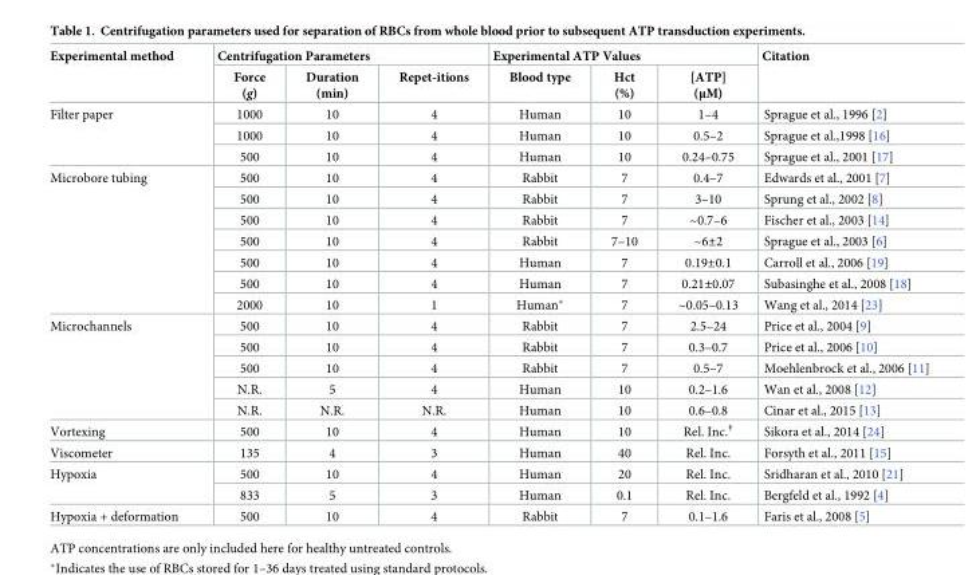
<table><thead><tr><td rowspan="2">Experimental method</td><td colspan="3">Centrifugation Parameters</td><td colspan="3">Experimental ATP Values</td><td rowspan="2">Citation</td></tr><tr><td>Force (g)</td><td>Duration (min)</td><td>Repet-itions</td><td>Blood type</td><td>Hct (%)</td><td>[ATP] (μM)</td></tr></thead><tbody><tr><td rowspan="3">Filter paper</td><td>1000</td><td>10</td><td>4</td><td>Human</td><td>10</td><td>1–4</td><td>Sprague et al., 1996 [2]</td></tr><tr><td>1000</td><td>10</td><td>4</td><td>Human</td><td>10</td><td>0.5–2</td><td>Sprague et al.,1998 [16]</td></tr><tr><td>500</td><td>10</td><td>4</td><td>Human</td><td>10</td><td>0.24–0.75</td><td>Sprague et al., 2001 [17]</td></tr><tr><td rowspan="7">Microbore tubing</td><td>500</td><td>10</td><td>4</td><td>Rabbit</td><td>7</td><td>0.4–7</td><td>Edwards et al., 2001 [7]</td></tr><tr><td>500</td><td>10</td><td>4</td><td>Rabbit</td><td>7</td><td>3–10</td><td>Sprung et al., 2002 [8]</td></tr><tr><td>500</td><td>10</td><td>4</td><td>Rabbit</td><td>7</td><td>~0.7–6</td><td>Fischer et al., 2003 [14]</td></tr><tr><td>500</td><td>10</td><td>4</td><td>Rabbit</td><td>7–10</td><td>~6±2</td><td>Sprague et al., 2003 [6]</td></tr><tr><td>500</td><td>10</td><td>4</td><td>Human</td><td>7</td><td>0.19±0.1</td><td>Carroll et al., 2006 [19]</td></tr><tr><td>500</td><td>10</td><td>4</td><td>Human</td><td>7</td><td>0.21±0.07</td><td>Subasinghe et al., 2008 [18]</td></tr><tr><td>2000</td><td>10</td><td>1</td><td>Human*</td><td>7</td><td>~0.05–0.13</td><td>Wang et al., 2014 [23]</td></tr><tr><td rowspan="5">Microchannels</td><td>500</td><td>10</td><td>4</td><td>Rabbit</td><td>7</td><td>2.5–24</td><td>Price et al., 2004 [9]</td></tr><tr><td>500</td><td>10</td><td>4</td><td>Rabbit</td><td>7</td><td>0.3–0.7</td><td>Price et al., 2006 [10]</td></tr><tr><td>500</td><td>10</td><td>4</td><td>Rabbit</td><td>7</td><td>0.5–7</td><td>Moehlenbrock et al., 2006 [11]</td></tr><tr><td>N.R.</td><td>5</td><td>4</td><td>Human</td><td>10</td><td>0.2–1.6</td><td>Wan et al., 2008 [12]</td></tr><tr><td>N.R.</td><td>N.R.</td><td>N.R.</td><td>Human</td><td>10</td><td>0.6–0.8</td><td>Cinar et al., 2015 [13]</td></tr><tr><td>Vortexing</td><td>500</td><td>10</td><td>4</td><td>Human</td><td>10</td><td>Rel. Inc.<sup>†</sup></td><td>Sikora et al., 2014 [24]</td></tr><tr><td>Viscometer</td><td>135</td><td>4</td><td>3</td><td>Human</td><td>40</td><td>Rel. Inc.</td><td>Forsyth et al., 2011 [15]</td></tr><tr><td rowspan="2">Hypoxia</td><td>500</td><td>10</td><td>4</td><td>Human</td><td>20</td><td>Rel. Inc.</td><td>Sridharan et al., 2010 [21]</td></tr><tr><td>833</td><td>5</td><td>3</td><td>Human</td><td>0.1</td><td>Rel. Inc.</td><td>Bergfeld et al., 1992 [4]</td></tr><tr><td>Hypoxia + deformation</td><td>500</td><td>10</td><td>4</td><td>Rabbit</td><td>7</td><td>0.1–1.6</td><td>Faris et al., 2008 [5]</td></tr></tbody></table>